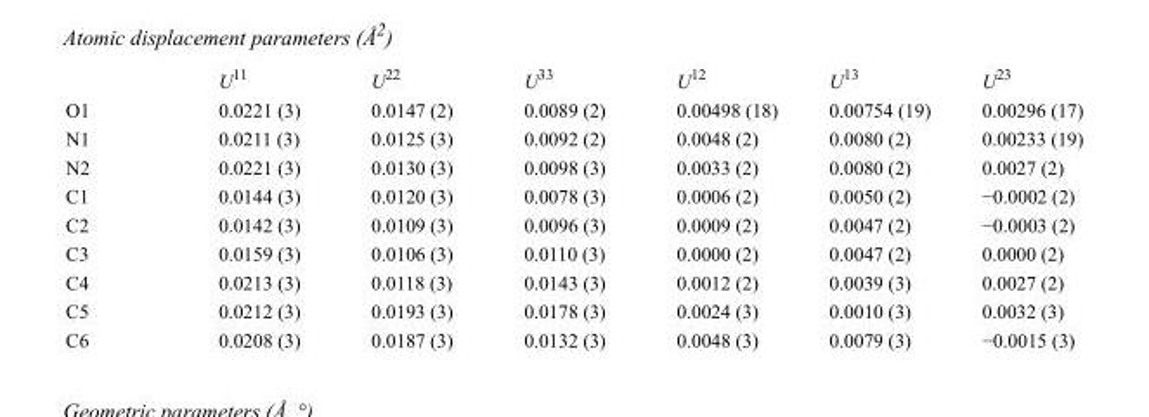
<table><thead><tr><td></td><td>U<sup>11</sup></td><td>U<sup>22</sup></td><td>U<sup>33</sup></td><td>U<sup>12</sup></td><td>U<sup>13</sup></td><td>U<sup>23</sup></td></tr></thead><tbody><tr><td>O1</td><td>0.0221 (3)</td><td>0.0147 (2)</td><td>0.0089 (2)</td><td>0.00498 (18)</td><td>0.00754 (19)</td><td>0.00296 (17)</td></tr><tr><td>N1</td><td>0.0211 (3)</td><td>0.0125 (3)</td><td>0.0092 (2)</td><td>0.0048 (2)</td><td>0.0080 (2)</td><td>0.00233 (19)</td></tr><tr><td>N2</td><td>0.0221 (3)</td><td>0.0130 (3)</td><td>0.0098 (3)</td><td>0.0033 (2)</td><td>0.0080 (2)</td><td>0.0027 (2)</td></tr><tr><td>C1</td><td>0.0144 (3)</td><td>0.0120 (3)</td><td>0.0078 (3)</td><td>0.0006 (2)</td><td>0.0050 (2)</td><td>−0.0002 (2)</td></tr><tr><td>C2</td><td>0.0142 (3)</td><td>0.0109 (3)</td><td>0.0096 (3)</td><td>0.0009 (2)</td><td>0.0047 (2)</td><td>−0.0003 (2)</td></tr><tr><td>C3</td><td>0.0159 (3)</td><td>0.0106 (3)</td><td>0.0110 (3)</td><td>0.0000 (2)</td><td>0.0047 (2)</td><td>0.0000 (2)</td></tr><tr><td>C4</td><td>0.0213 (3)</td><td>0.0118 (3)</td><td>0.0143 (3)</td><td>0.0012 (2)</td><td>0.0039 (3)</td><td>0.0027 (2)</td></tr><tr><td>C5</td><td>0.0212 (3)</td><td>0.0193 (3)</td><td>0.0178 (3)</td><td>0.0024 (3)</td><td>0.0010 (3)</td><td>0.0032 (3)</td></tr><tr><td>C6</td><td>0.0208 (3)</td><td>0.0187 (3)</td><td>0.0132 (3)</td><td>0.0048 (3)</td><td>0.0079 (3)</td><td>−0.0015 (3)</td></tr></tbody></table>